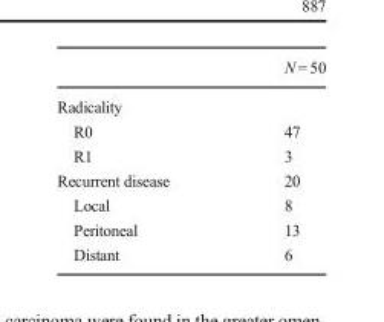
<table><thead><tr><td></td><td>N = 50</td></tr></thead><tbody><tr><td colspan="2">Radicality</td></tr><tr><td>R0</td><td>47</td></tr><tr><td>R1</td><td>3</td></tr><tr><td>Recurrent disease</td><td>20</td></tr><tr><td>Local</td><td>8</td></tr><tr><td>Peritoneal</td><td>13</td></tr><tr><td>Distant</td><td>6</td></tr></tbody></table>